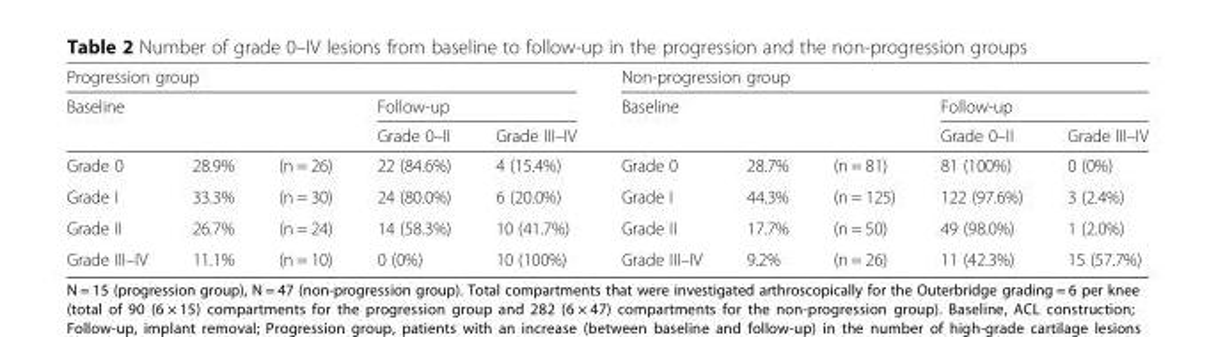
<table><thead><tr><td colspan="5">Progression group</td><td colspan="5">Non-progression group</td></tr><tr><td rowspan="2">Baseline</td><td rowspan="2"></td><td rowspan="2"></td><td colspan="2">Follow-up</td><td rowspan="2">Baseline</td><td rowspan="2"></td><td rowspan="2"></td><td colspan="2">Follow-up</td></tr><tr><td>Grade 0–II</td><td>Grade III–IV</td><td>Grade 0–II</td><td>Grade III–IV</td></tr></thead><tbody><tr><td>Grade 0</td><td>28.9%</td><td>(n = 26)</td><td>22 (84.6%)</td><td>4 (15.4%)</td><td>Grade 0</td><td>28.7%</td><td>(n = 81)</td><td>81 (100%)</td><td>0 (0%)</td></tr><tr><td>Grade I</td><td>33.3%</td><td>(n = 30)</td><td>24 (80.0%)</td><td>6 (20.0%)</td><td>Grade I</td><td>44.3%</td><td>(n = 125)</td><td>122 (97.6%)</td><td>3 (2.4%)</td></tr><tr><td>Grade II</td><td>26.7%</td><td>(n = 24)</td><td>14 (58.3%)</td><td>10 (41.7%)</td><td>Grade II</td><td>17.7%</td><td>(n = 50)</td><td>49 (98.0%)</td><td>1 (2.0%)</td></tr><tr><td>Grade III–IV</td><td>11.1%</td><td>(n = 10)</td><td>0 (0%)</td><td>10 (100%)</td><td>Grade III–IV</td><td>9.2%</td><td>(n = 26)</td><td>11 (42.3%)</td><td>15 (57.7%)</td></tr></tbody></table>